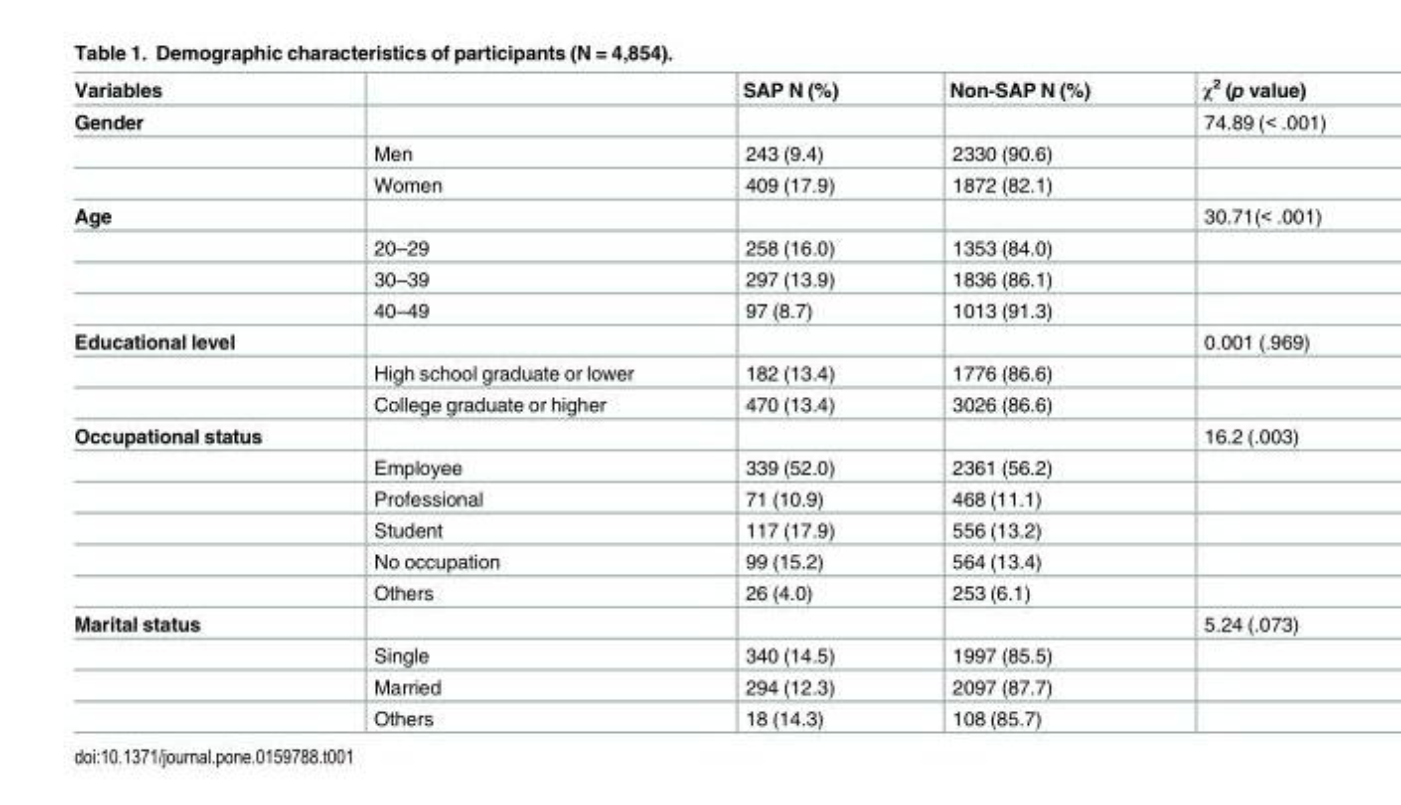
<table><thead><tr><td>Variables</td><td></td><td>SAP N (%)</td><td>Non-SAP N (%)</td><td>χ<sup>2</sup> (p value)</td></tr></thead><tbody><tr><td rowspan="3">Gender</td><td></td><td></td><td></td><td>74.89 (&lt; .001)</td></tr><tr><td>Men</td><td>243 (9.4)</td><td>2330 (90.6)</td><td></td></tr><tr><td>Women</td><td>409 (17.9)</td><td>1872 (82.1)</td><td></td></tr><tr><td rowspan="4">Age</td><td></td><td></td><td></td><td>30.71(&lt; .001)</td></tr><tr><td>20–29</td><td>258 (16.0)</td><td>1353 (84.0)</td><td></td></tr><tr><td>30–39</td><td>297 (13.9)</td><td>1836 (86.1)</td><td></td></tr><tr><td>40–49</td><td>97 (8.7)</td><td>1013 (91.3)</td><td></td></tr><tr><td rowspan="3">Educational level</td><td></td><td></td><td></td><td>0.001 (.969)</td></tr><tr><td>High school graduate or lower</td><td>182 (13.4)</td><td>1776 (86.6)</td><td></td></tr><tr><td>College graduate or higher</td><td>470 (13.4)</td><td>3026 (86.6)</td><td></td></tr><tr><td rowspan="6">Occupational status</td><td></td><td></td><td></td><td>16.2 (.003)</td></tr><tr><td>Employee</td><td>339 (52.0)</td><td>2361 (56.2)</td><td></td></tr><tr><td>Professional</td><td>71 (10.9)</td><td>468 (11.1)</td><td></td></tr><tr><td>Student</td><td>117 (17.9)</td><td>556 (13.2)</td><td></td></tr><tr><td>No occupation</td><td>99 (15.2)</td><td>564 (13.4)</td><td></td></tr><tr><td>Others</td><td>26 (4.0)</td><td>253 (6.1)</td><td></td></tr><tr><td rowspan="4">Marital status</td><td></td><td></td><td></td><td>5.24 (.073)</td></tr><tr><td>Single</td><td>340 (14.5)</td><td>1997 (85.5)</td><td></td></tr><tr><td>Married</td><td>294 (12.3)</td><td>2097 (87.7)</td><td></td></tr><tr><td>Others</td><td>18 (14.3)</td><td>108 (85.7)</td><td></td></tr></tbody></table>